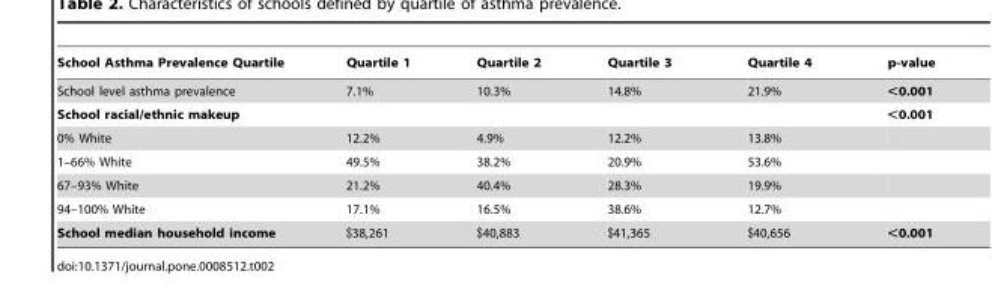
<table><thead><tr><td>School Asthma Prevalence Quartile</td><td>Quartile 1</td><td>Quartile 2</td><td>Quartile 3</td><td>Quartile 4</td><td>p-value</td></tr></thead><tbody><tr><td>School level asthma prevalence</td><td>7.1%</td><td>10.3%</td><td>14.8%</td><td>21.9%</td><td>&lt;0.001</td></tr><tr><td>School racial/ethnic makeup</td><td></td><td></td><td></td><td></td><td>&lt;0.001</td></tr><tr><td>0% White</td><td>12.2%</td><td>4.9%</td><td>12.2%</td><td>13.8%</td><td></td></tr><tr><td>1–66% White</td><td>49.5%</td><td>38.2%</td><td>20.9%</td><td>53.6%</td><td></td></tr><tr><td>67–93% White</td><td>21.2%</td><td>40.4%</td><td>28.3%</td><td>19.9%</td><td></td></tr><tr><td>94–100% White</td><td>17.1%</td><td>16.5%</td><td>38.6%</td><td>12.7%</td><td></td></tr><tr><td>School median household income</td><td>$38,261</td><td>$40,883</td><td>$41,365</td><td>$40,656</td><td>&lt;0.001</td></tr></tbody></table>